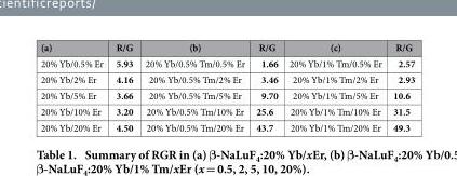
<table><thead><tr><td>(a)</td><td>R/G</td><td>(b)</td><td>R/G</td><td>(c)</td><td>R/G</td></tr></thead><tbody><tr><td>20% Yb/0.5% Er</td><td>5.93</td><td>20% Yb/0.5% Tm/0.5% Er</td><td>1.66</td><td>20% Yb/1% Tm/0.5% Er</td><td>2.57</td></tr><tr><td>20% Yb/2% Er</td><td>4.16</td><td>20% Yb/0.5% Tm/2% Er</td><td>3.46</td><td>20% Yb/1% Tm/2% Er</td><td>2.93</td></tr><tr><td>20% Yb/5% Er</td><td>3.66</td><td>20% Yb/0.5% Tm/5% Er</td><td>9.70</td><td>20% Yb/1% Tm/5% Er</td><td>10.6</td></tr><tr><td>20% Yb/10% Er</td><td>3.20</td><td>20% Yb/0.5% Tm/10% Er</td><td>25.6</td><td>20% Yb/1% Tm/10% Er</td><td>31.5</td></tr><tr><td>20% Yb/20% Er</td><td>4.50</td><td>20% Yb/0.5% Tm/20% Er</td><td>43.7</td><td>20% Yb/1% Tm/20% Er</td><td>49.3</td></tr></tbody></table>